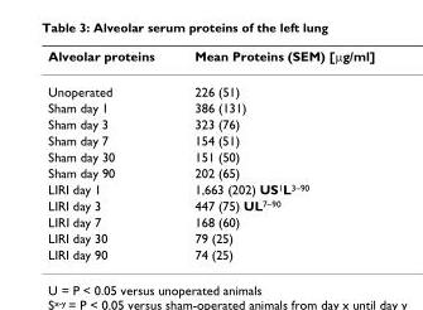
<table><thead><tr><td>Alveolar proteins</td><td>Mean Proteins (SEM) [μg/ml]</td></tr></thead><tbody><tr><td>Unoperated</td><td>226 (51)</td></tr><tr><td>Sham day 1</td><td>386 (131)</td></tr><tr><td>Sham day 3</td><td>323 (76)</td></tr><tr><td>Sham day 7</td><td>154 (51)</td></tr><tr><td>Sham day 30</td><td>151 (50)</td></tr><tr><td>Sham day 90</td><td>202 (65)</td></tr><tr><td>LIRI day 1</td><td>1,663 (202) US<sup>1</sup>L<sup>3–90</sup></td></tr><tr><td>LIRI day 3</td><td>447 (75) UL<sup>7–90</sup></td></tr><tr><td>LIRI day 7</td><td>168 (60)</td></tr><tr><td>LIRI day 30</td><td>79 (25)</td></tr><tr><td>LIRI day 90</td><td>74 (25)</td></tr></tbody></table>